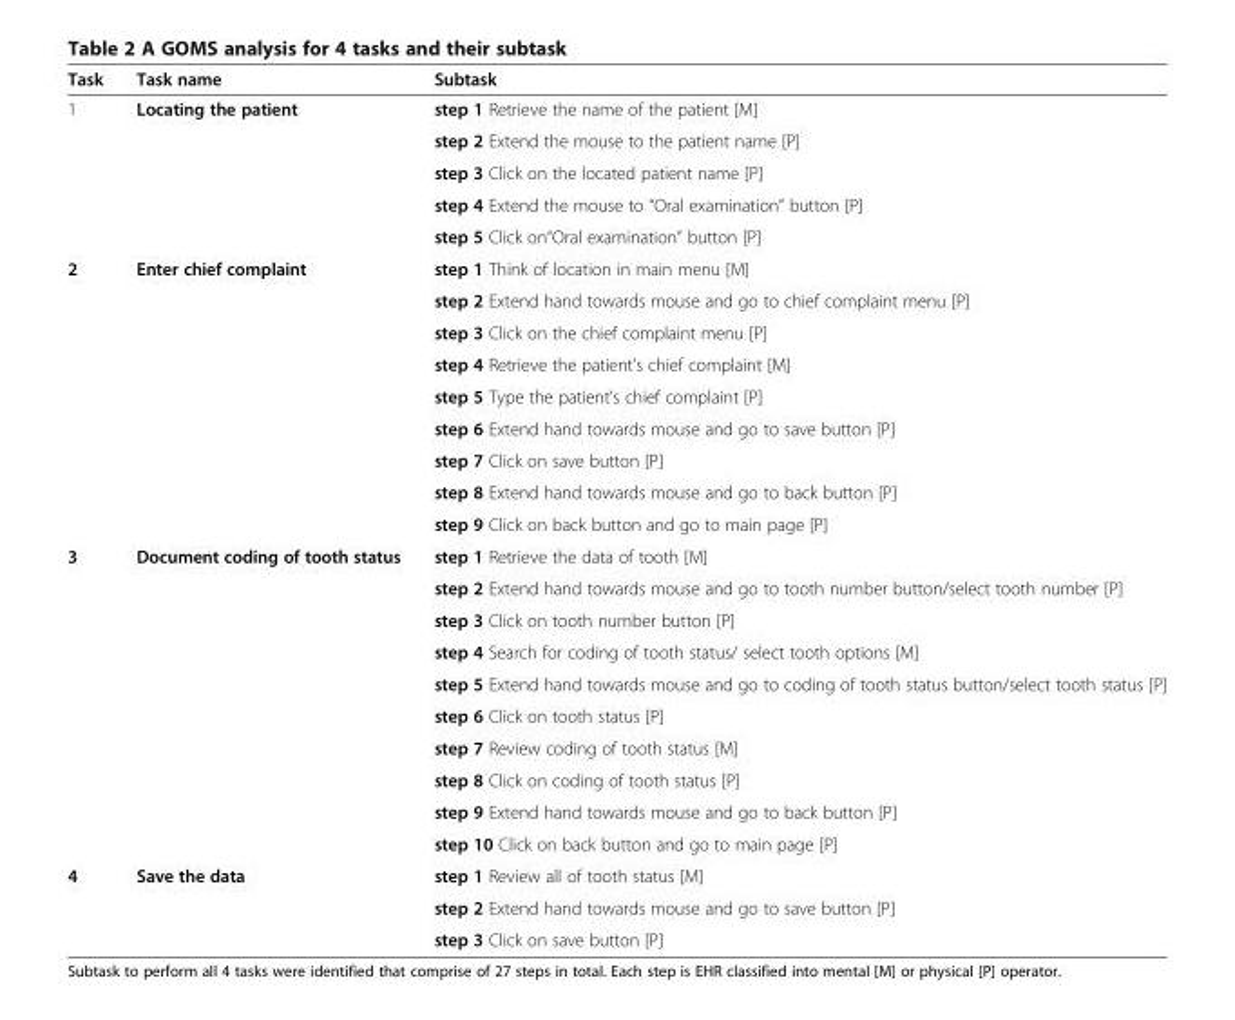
<table><thead><tr><td>Task</td><td>Task name</td><td>Subtask</td></tr></thead><tbody><tr><td rowspan="5">1</td><td rowspan="5">Locating the patient</td><td>step 1 Retrieve the name of the patient [M]</td></tr><tr><td>step 2 Extend the mouse to the patient name [P]</td></tr><tr><td>step 3 Click on the located patient name [P]</td></tr><tr><td>step 4 Extend the mouse to “Oral examination” button [P]</td></tr><tr><td>step 5 Click on“Oral examination” button [P]</td></tr><tr><td rowspan="9">2</td><td rowspan="9">Enter chief complaint</td><td>step 1 Think of location in main menu [M]</td></tr><tr><td>step 2 Extend hand towards mouse and go to chief complaint menu [P]</td></tr><tr><td>step 3 Click on the chief complaint menu [P]</td></tr><tr><td>step 4 Retrieve the patient&#x27;s chief complaint [M]</td></tr><tr><td>step 5 Type the patient&#x27;s chief complaint [P]</td></tr><tr><td>step 6 Extend hand towards mouse and go to save button [P]</td></tr><tr><td>step 7 Click on save button [P]</td></tr><tr><td>step 8 Extend hand towards mouse and go to back button [P]</td></tr><tr><td>step 9 Click on back button and go to main page [P]</td></tr><tr><td rowspan="10">3</td><td rowspan="10">Document coding of tooth status</td><td>step 1 Retrieve the data of tooth [M]</td></tr><tr><td>step 2 Extend hand towards mouse and go to tooth number button/select tooth number [P]</td></tr><tr><td>step 3 Click on tooth number button [P]</td></tr><tr><td>step 4 Search for coding of tooth status/ select tooth options [M]</td></tr><tr><td>step 5 Extend hand towards mouse and go to coding of tooth status button/select tooth status [P]</td></tr><tr><td>step 6 Click on tooth status [P]</td></tr><tr><td>step 7 Review coding of tooth status [M]</td></tr><tr><td>step 8 Click on coding of tooth status [P]</td></tr><tr><td>step 9 Extend hand towards mouse and go to back button [P]</td></tr><tr><td>step 10 Click on back button and go to main page [P]</td></tr><tr><td rowspan="3">4</td><td rowspan="3">Save the data</td><td>step 1 Review all of tooth status [M]</td></tr><tr><td>step 2 Extend hand towards mouse and go to save button [P]</td></tr><tr><td>step 3 Click on save button [P]</td></tr></tbody></table>